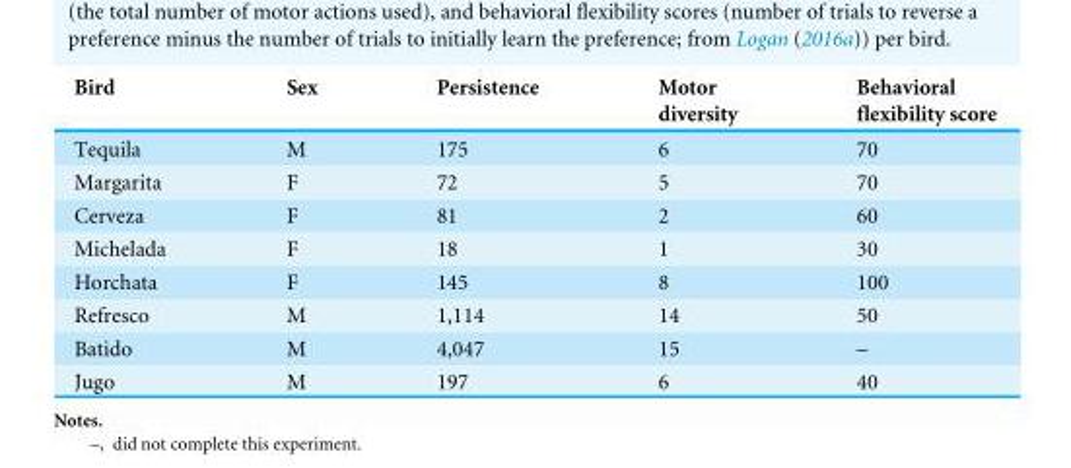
<table><thead><tr><td>Bird</td><td>Sex</td><td>Persistence</td><td>Motor diversity</td><td>Behavioral flexibility score</td></tr></thead><tbody><tr><td>Tequila</td><td>M</td><td>175</td><td>6</td><td>70</td></tr><tr><td>Margarita</td><td>F</td><td>72</td><td>5</td><td>70</td></tr><tr><td>Cerveza</td><td>F</td><td>81</td><td>2</td><td>60</td></tr><tr><td>Michelada</td><td>F</td><td>18</td><td>1</td><td>30</td></tr><tr><td>Horchata</td><td>F</td><td>145</td><td>8</td><td>100</td></tr><tr><td>Refresco</td><td>M</td><td>1,114</td><td>14</td><td>50</td></tr><tr><td>Batido</td><td>M</td><td>4,047</td><td>15</td><td>–</td></tr><tr><td>Jugo</td><td>M</td><td>197</td><td>6</td><td>40</td></tr></tbody></table>